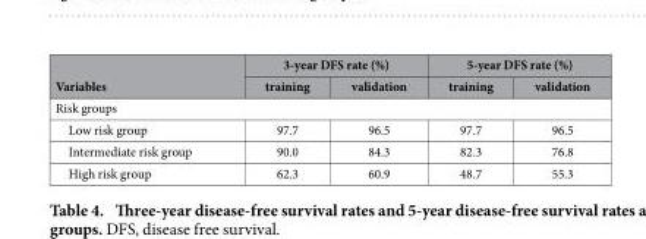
<table><thead><tr><td rowspan="2">Variables</td><td colspan="2">3-year DFS rate (%)</td><td colspan="2">5-year DFS rate (%)</td></tr><tr><td>training</td><td>validation</td><td>training</td><td>validation</td></tr></thead><tbody><tr><td colspan="5">Risk groups</td></tr><tr><td>Low risk group</td><td>97.7</td><td>96.5</td><td>97.7</td><td>96.5</td></tr><tr><td>Intermediate risk group</td><td>90.0</td><td>84.3</td><td>82.3</td><td>76.8</td></tr><tr><td>High risk group</td><td>62.3</td><td>60.9</td><td>48.7</td><td>55.3</td></tr></tbody></table>